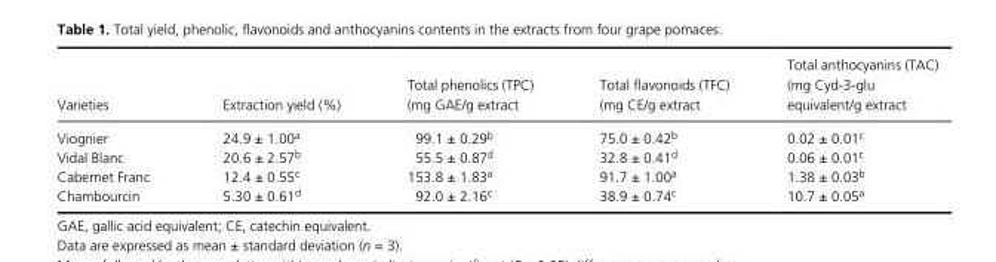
<table><thead><tr><td>Varieties</td><td>Extraction yield (%)</td><td>Total phenolics (TPC) (mg GAE/g extract</td><td>Total flavonoids (TFC) (mg CE/g extract</td><td>Total anthocyanins (TAC) (mg Cyd- 3- glu equivalent/g extract</td></tr></thead><tbody><tr><td>Viognier</td><td>24.9 ± 1.00<sup>a</sup></td><td>99.1 ± 0.29<sup>b</sup></td><td>75.0 ± 0.42<sup>b</sup></td><td>0.02 ± 0.01<sup>c</sup></td></tr><tr><td>Vidal Blanc</td><td>20.6 ± 2.57<sup>b</sup></td><td>55.5 ± 0.87<sup>d</sup></td><td>32.8 ± 0.41<sup>d</sup></td><td>0.06 ± 0.01<sup>c</sup></td></tr><tr><td>Cabernet Franc</td><td>12.4 ± 0.55<sup>c</sup></td><td>153.8 ± 1.83<sup>a</sup></td><td>91.7 ± 1.00<sup>a</sup></td><td>1.38 ± 0.03<sup>b</sup></td></tr><tr><td>Chambourcin</td><td>5.30 ± 0.61<sup>d</sup></td><td>92.0 ± 2.16<sup>c</sup></td><td>38.9 ± 0.74<sup>c</sup></td><td>10.7 ± 0.05<sup>a</sup></td></tr></tbody></table>